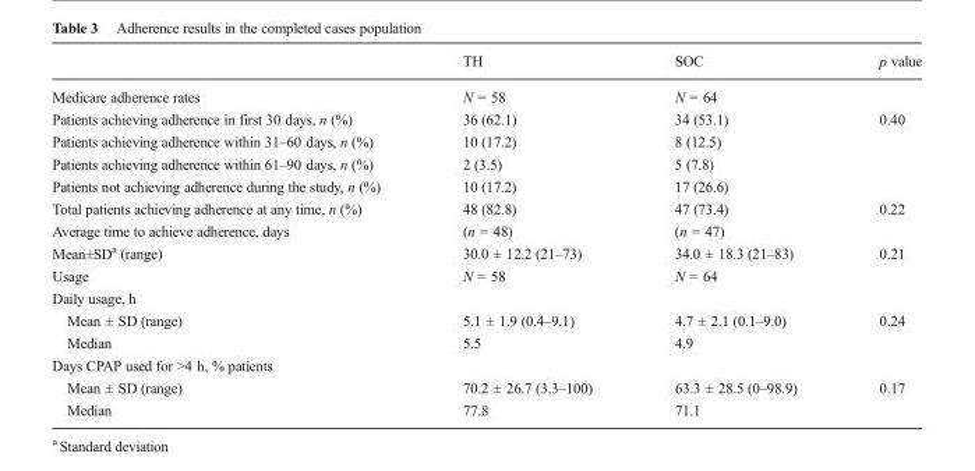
<table><thead><tr><td></td><td>TH</td><td>SOC</td><td>p value</td></tr></thead><tbody><tr><td>Medicare adherence rates</td><td>N = 58</td><td>N = 64</td><td></td></tr><tr><td>Patients achieving adherence in first 30 days, n (%)</td><td>36 (62.1)</td><td>34 (53.1)</td><td>0.40</td></tr><tr><td>Patients achieving adherence within 31–60 days, n (%)</td><td>10 (17.2)</td><td>8 (12.5)</td><td></td></tr><tr><td>Patients achieving adherence within 61–90 days, n (%)</td><td>2 (3.5)</td><td>5 (7.8)</td><td></td></tr><tr><td>Patients not achieving adherence during the study, n (%)</td><td>10 (17.2)</td><td>17 (26.6)</td><td></td></tr><tr><td>Total patients achieving adherence at any time, n (%)</td><td>48 (82.8)</td><td>47 (73.4)</td><td>0.22</td></tr><tr><td>Average time to achieve adherence, days</td><td>(n = 48)</td><td>(n = 47)</td><td></td></tr><tr><td>Mean±SD<sup>a</sup> (range)</td><td>30.0 ± 12.2 (21–73)</td><td>34.0 ± 18.3 (21–83)</td><td>0.21</td></tr><tr><td>Usage</td><td>N = 58</td><td>N = 64</td><td></td></tr><tr><td colspan="4">Daily usage, h</td></tr><tr><td>Mean ± SD (range)</td><td>5.1 ± 1.9 (0.4–9.1)</td><td>4.7 ± 2.1 (0.1–9.0)</td><td>0.24</td></tr><tr><td>Median</td><td>5.5</td><td>4.9</td><td></td></tr><tr><td colspan="4">Days CPAP used for &gt;4 h, % patients</td></tr><tr><td>Mean ± SD (range)</td><td>70.2 ± 26.7 (3.3–100)</td><td>63.3 ± 28.5 (0–98.9)</td><td>0.17</td></tr><tr><td>Median</td><td>77.8</td><td>71.1</td><td></td></tr></tbody></table>